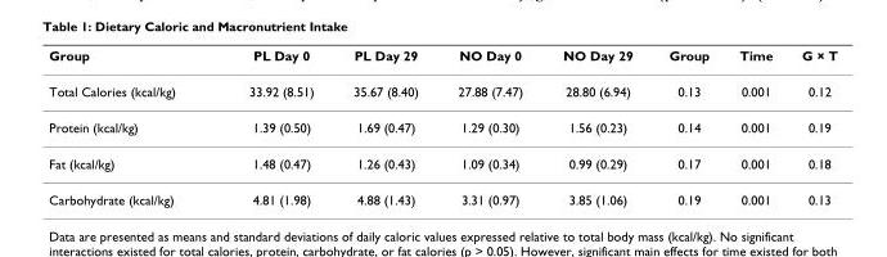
<table><thead><tr><td>Group</td><td>PL Day 0</td><td>PL Day 29</td><td>NO Day 0</td><td>NO Day 29</td><td>Group</td><td>Time</td><td>G × T</td></tr></thead><tbody><tr><td>Total Calories (kcal/kg)</td><td>33.92 (8.51)</td><td>35.67 (8.40)</td><td>27.88 (7.47)</td><td>28.80 (6.94)</td><td>0.13</td><td>0.001</td><td>0.12</td></tr><tr><td>Protein (kcal/kg)</td><td>1.39 (0.50)</td><td>1.69 (0.47)</td><td>1.29 (0.30)</td><td>1.56 (0.23)</td><td>0.14</td><td>0.001</td><td>0.19</td></tr><tr><td>Fat (kcal/kg)</td><td>1.48 (0.47)</td><td>1.26 (0.43)</td><td>1.09 (0.34)</td><td>0.99 (0.29)</td><td>0.17</td><td>0.001</td><td>0.18</td></tr><tr><td>Carbohydrate (kcal/kg)</td><td>4.81 (1.98)</td><td>4.88 (1.43)</td><td>3.31 (0.97)</td><td>3.85 (1.06)</td><td>0.19</td><td>0.001</td><td>0.13</td></tr></tbody></table>